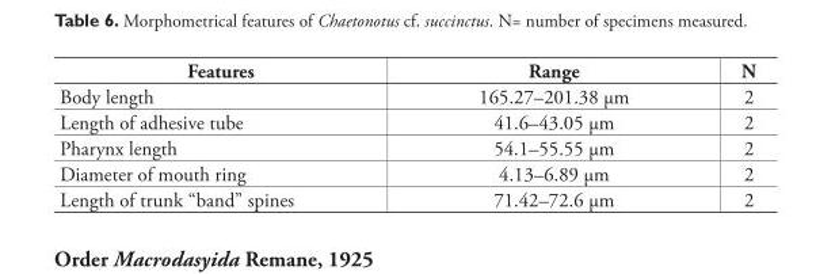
<table><thead><tr><td>Features</td><td>Range</td><td>N</td></tr></thead><tbody><tr><td>Body length</td><td>165.27–201.38 μm</td><td>2</td></tr><tr><td>Length of adhesive tube</td><td>41.6–43.05 μm</td><td>2</td></tr><tr><td>Pharynx length</td><td>54.1–55.55 μm</td><td>2</td></tr><tr><td>Diameter of mouth ring</td><td>4.13–6.89 μm</td><td>2</td></tr><tr><td>Length of trunk “band” spines</td><td>71.42–72.6 μm</td><td>2</td></tr></tbody></table>